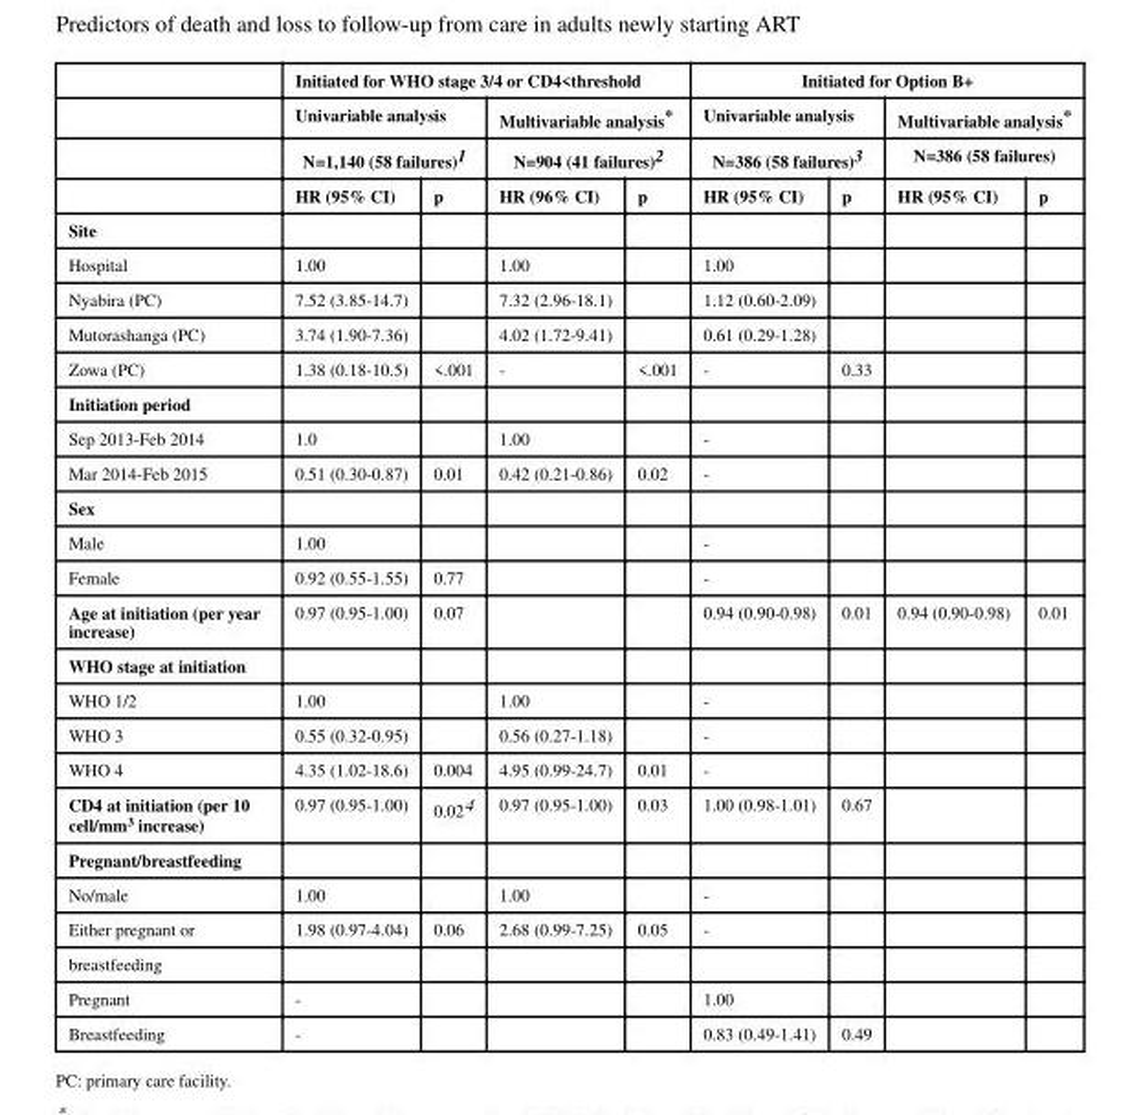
<table><thead><tr><td rowspan="4"></td><td colspan="4">Initiated for WHO stage 3/4 or CD4&lt;threshold</td><td colspan="4">Initiated for Option B+</td></tr><tr><td rowspan="2" colspan="2">Univariable analysis N=1,140 (58 failures)<sup>1</sup></td><td rowspan="2" colspan="2">Multivariable analysis* N=904 (41 failures)<sup>2</sup></td><td rowspan="2" colspan="2">Univariable analysis N=386 (58 failures)<sup>3</sup></td><td rowspan="2" colspan="2">Multivariable analysis* N=386 (58 failures)</td></tr><tr></tr><tr><td>HR (95% CI)</td><td>p</td><td>HR (96% CI)</td><td>p</td><td>HR (95% CI)</td><td>p</td><td>HR (95% CI)</td><td>p</td></tr></thead><tbody><tr><td colspan="9">Site</td></tr><tr><td>Hospital</td><td>1.00</td><td></td><td>1.00</td><td></td><td>1.00</td><td></td><td></td><td></td></tr><tr><td>Nyabira (PC)</td><td>7.52 (3.85-14.7)</td><td></td><td>7.32 (2.96-18.1)</td><td></td><td>1.12 (0.60-2.09)</td><td></td><td></td><td></td></tr><tr><td>Mutorashanga (PC)</td><td>3.74 (1.90-7.36)</td><td></td><td>4.02 (1.72-9.41)</td><td></td><td>0.61 (0.29-1.28)</td><td></td><td></td><td></td></tr><tr><td>Zowa (PC)</td><td>1.38 (0.18-10.5)</td><td>&lt;.001</td><td>-</td><td>&lt;.001</td><td>-</td><td>0.33</td><td></td><td></td></tr><tr><td colspan="9">Initiation period</td></tr><tr><td>Sep 2013-Feb 2014</td><td>1.0</td><td></td><td>1.00</td><td></td><td>-</td><td></td><td></td><td></td></tr><tr><td>Mar 2014-Feb 2015</td><td>0.51 (0.30-0.87)</td><td>0.01</td><td>0.42 (0.21-0.86)</td><td>0.02</td><td>-</td><td></td><td></td><td></td></tr><tr><td colspan="9">Sex</td></tr><tr><td>Male</td><td>1.00</td><td></td><td></td><td></td><td>-</td><td></td><td></td><td></td></tr><tr><td>Female</td><td>0.92 (0.55-1.55)</td><td>0.77</td><td></td><td></td><td>-</td><td></td><td></td><td></td></tr><tr><td>Age at initiation (per year increase)</td><td>0.97 (0.95-1.00)</td><td>0.07</td><td></td><td></td><td>0.94 (0.90-0.98)</td><td>0.01</td><td>0.94 (0.90-0.98)</td><td>0.01</td></tr><tr><td colspan="9">WHO stage at initiation</td></tr><tr><td>WHO 1/2</td><td>1.00</td><td></td><td>1.00</td><td></td><td>-</td><td></td><td></td><td></td></tr><tr><td>WHO 3</td><td>0.55 (0.32-0.95)</td><td></td><td>0.56 (0.27-1.18)</td><td></td><td>-</td><td></td><td></td><td></td></tr><tr><td>WHO 4</td><td>4.35 (1.02-18.6)</td><td>0.004</td><td>4.95 (0.99-24.7)</td><td>0.01</td><td>-</td><td></td><td></td><td></td></tr><tr><td>CD4 at initiation (per 10 cell/mm<sup>3</sup> increase)</td><td>0.97 (0.95-1.00)</td><td>0.02<sup>4</sup></td><td>0.97 (0.95-1.00)</td><td>0.03</td><td>1.00 (0.98-1.01)</td><td>0.67</td><td></td><td></td></tr><tr><td colspan="9">Pregnant/breastfeeding</td></tr><tr><td>No/male</td><td>1.00</td><td></td><td>1.00</td><td></td><td>-</td><td></td><td></td><td></td></tr><tr><td>Either pregnant or</td><td>1.98 (0.97-4.04)</td><td>0.06</td><td>2.68 (0.99-7.25)</td><td>0.05</td><td>-</td><td></td><td></td><td></td></tr><tr><td colspan="9">breastfeeding</td></tr><tr><td>Pregnant</td><td>-</td><td></td><td></td><td></td><td>1.00</td><td></td><td></td><td></td></tr><tr><td>Breastfeeding</td><td>-</td><td></td><td></td><td></td><td>0.83 (0.49-1.41)</td><td>0.49</td><td></td><td></td></tr></tbody></table>